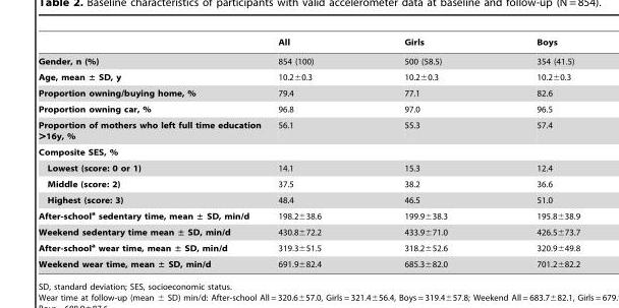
<table><thead><tr><td></td><td>All</td><td>Girls</td><td>Boys</td></tr></thead><tbody><tr><td>Gender, n (%)</td><td>854 (100)</td><td>500 (58.5)</td><td>354 (41.5)</td></tr><tr><td>Age, mean ± SD, y</td><td>10.2±0.3</td><td>10.2±0.3</td><td>10.2±0.3</td></tr><tr><td>Proportion owning/buying home, %</td><td>79.4</td><td>77.1</td><td>82.6</td></tr><tr><td>Proportion owning car, %</td><td>96.8</td><td>97.0</td><td>96.5</td></tr><tr><td>Proportion of mothers who left full time education &gt;16y, %</td><td>56.1</td><td>55.3</td><td>57.4</td></tr><tr><td colspan="4">Composite SES, %</td></tr><tr><td>Lowest (score: 0 or 1)</td><td>14.1</td><td>15.3</td><td>12.4</td></tr><tr><td>Middle (score: 2)</td><td>37.5</td><td>38.2</td><td>36.6</td></tr><tr><td>Highest (score: 3)</td><td>48.4</td><td>46.5</td><td>51.0</td></tr><tr><td>After-schoola sedentary time, mean ± SD, min/d</td><td>198.2±38.6</td><td>199.9±38.3</td><td>195.8±38.9</td></tr><tr><td>Weekend sedentary time mean ± SD, min/d</td><td>430.8±72.2</td><td>433.9±71.0</td><td>426.5±73.7</td></tr><tr><td>After-schoola wear time, mean ± SD, min/d</td><td>319.3±51.5</td><td>318.2±52.6</td><td>320.9±49.8</td></tr><tr><td>Weekend wear time, mean ± SD, min/d</td><td>691.9±82.4</td><td>685.3±82.0</td><td>701.2±82.2</td></tr></tbody></table>